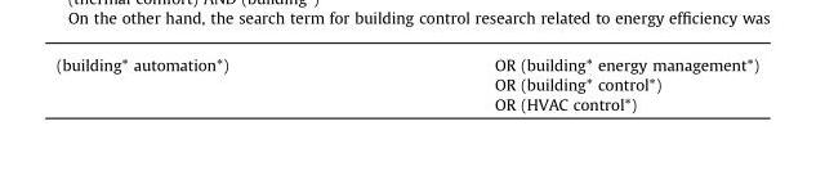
<table><tbody><tr><td rowspan="3">(building* automation*)</td><td>OR (building* energy management*)</td></tr><tr><td>OR (building* control*)</td></tr><tr><td>OR (HVAC control*)</td></tr></tbody></table>